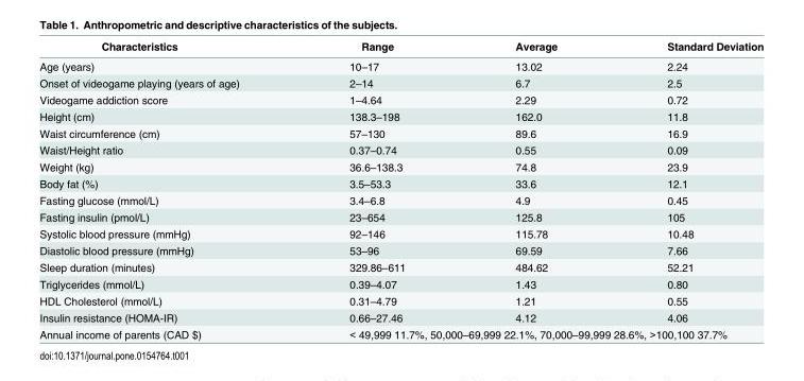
<table><thead><tr><td>Characteristics</td><td>Range</td><td>Average</td><td>Standard Deviation</td></tr></thead><tbody><tr><td>Age (years)</td><td>10–17</td><td>13.02</td><td>2.24</td></tr><tr><td>Onset of videogame playing (years of age)</td><td>2–14</td><td>6.7</td><td>2.5</td></tr><tr><td>Videogame addiction score</td><td>1–4.64</td><td>2.29</td><td>0.72</td></tr><tr><td>Height (cm)</td><td>138.3–198</td><td>162.0</td><td>11.8</td></tr><tr><td>Waist circumference (cm)</td><td>57–130</td><td>89.6</td><td>16.9</td></tr><tr><td>Waist/Height ratio</td><td>0.37–0.74</td><td>0.55</td><td>0.09</td></tr><tr><td>Weight (kg)</td><td>36.6–138.3</td><td>74.8</td><td>23.9</td></tr><tr><td>Body fat (%)</td><td>3.5–53.3</td><td>33.6</td><td>12.1</td></tr><tr><td>Fasting glucose (mmol/L)</td><td>3.4–6.8</td><td>4.9</td><td>0.45</td></tr><tr><td>Fasting insulin (pmol/L)</td><td>23–654</td><td>125.8</td><td>105</td></tr><tr><td>Systolic blood pressure (mmHg)</td><td>92–146</td><td>115.78</td><td>10.48</td></tr><tr><td>Diastolic blood pressure (mmHg)</td><td>53–96</td><td>69.59</td><td>7.66</td></tr><tr><td>Sleep duration (minutes)</td><td>329.86–611</td><td>484.62</td><td>52.21</td></tr><tr><td>Triglycerides (mmol/L)</td><td>0.39–4.07</td><td>1.43</td><td>0.80</td></tr><tr><td>HDL Cholesterol (mmol/L)</td><td>0.31–4.79</td><td>1.21</td><td>0.55</td></tr><tr><td>Insulin resistance (HOMA-IR)</td><td>0.66–27.46</td><td>4.12</td><td>4.06</td></tr><tr><td>Annual income of parents (CAD $)</td><td colspan="3">&lt; 49,999 11.7%, 50,000–69,999 22.1%, 70,000–99,999 28.6%, &gt;100,100 37.7%</td></tr></tbody></table>